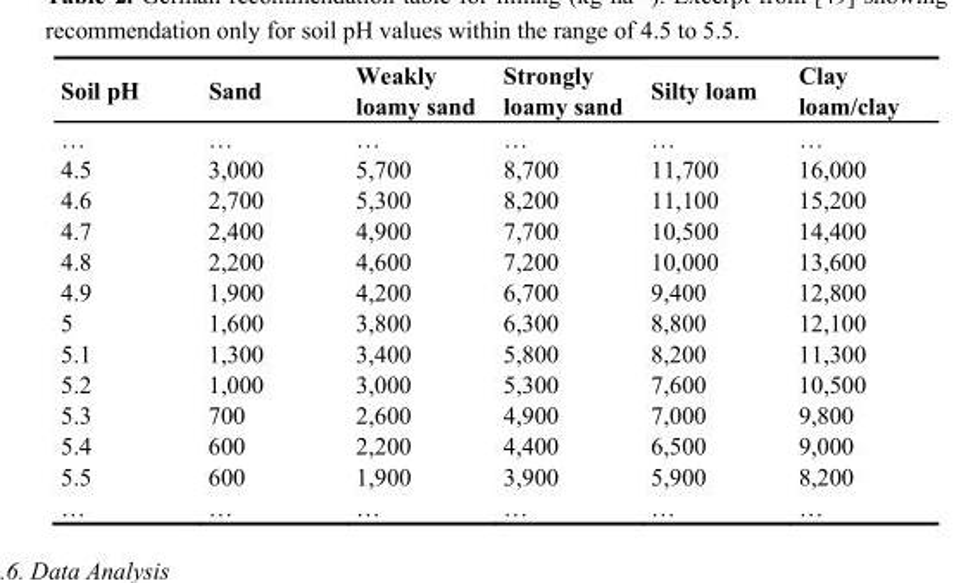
<table><thead><tr><td>Soil pH</td><td>Sand</td><td>Weakly loamy sand</td><td>Strongly loamy sand</td><td>Silty loam</td><td>Clay loam/clay</td></tr></thead><tbody><tr><td>…</td><td>…</td><td>…</td><td>…</td><td>…</td><td>…</td></tr><tr><td>4.5</td><td>3,000</td><td>5,700</td><td>8,700</td><td>11,700</td><td>16,000</td></tr><tr><td>4.6</td><td>2,700</td><td>5,300</td><td>8,200</td><td>11,100</td><td>15,200</td></tr><tr><td>4.7</td><td>2,400</td><td>4,900</td><td>7,700</td><td>10,500</td><td>14,400</td></tr><tr><td>4.8</td><td>2,200</td><td>4,600</td><td>7,200</td><td>10,000</td><td>13,600</td></tr><tr><td>4.9</td><td>1,900</td><td>4,200</td><td>6,700</td><td>9,400</td><td>12,800</td></tr><tr><td>5</td><td>1,600</td><td>3,800</td><td>6,300</td><td>8,800</td><td>12,100</td></tr><tr><td>5.1</td><td>1,300</td><td>3,400</td><td>5,800</td><td>8,200</td><td>11,300</td></tr><tr><td>5.2</td><td>1,000</td><td>3,000</td><td>5,300</td><td>7,600</td><td>10,500</td></tr><tr><td>5.3</td><td>700</td><td>2,600</td><td>4,900</td><td>7,000</td><td>9,800</td></tr><tr><td>5.4</td><td>600</td><td>2,200</td><td>4,400</td><td>6,500</td><td>9,000</td></tr><tr><td>5.5</td><td>600</td><td>1,900</td><td>3,900</td><td>5,900</td><td>8,200</td></tr><tr><td>…</td><td>…</td><td>…</td><td>…</td><td>…</td><td>…</td></tr></tbody></table>